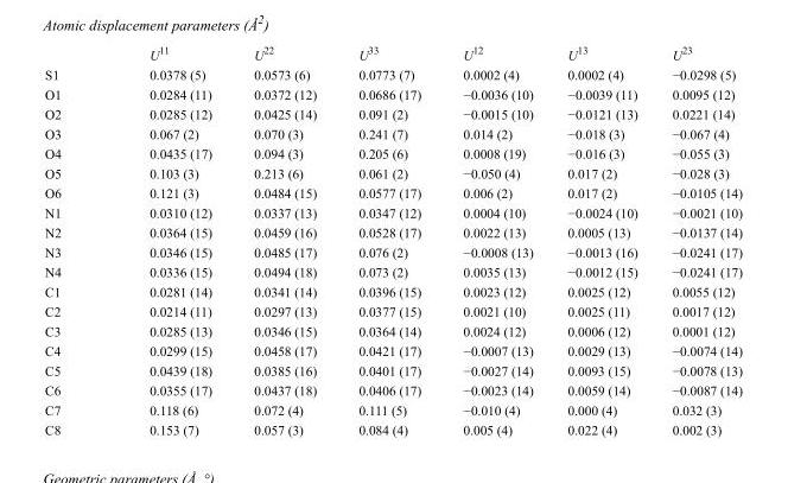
<table><thead><tr><td></td><td>U<sup>11</sup></td><td>U<sup>22</sup></td><td>U<sup>33</sup></td><td>U<sup>12</sup></td><td>U<sup>13</sup></td><td>U<sup>23</sup></td></tr></thead><tbody><tr><td>S1</td><td>0.0378 (5)</td><td>0.0573 (6)</td><td>0.0773 (7)</td><td>0.0002 (4)</td><td>0.0002 (4)</td><td>−0.0298 (5)</td></tr><tr><td>O1</td><td>0.0284 (11)</td><td>0.0372 (12)</td><td>0.0686 (17)</td><td>−0.0036 (10)</td><td>−0.0039 (11)</td><td>0.0095 (12)</td></tr><tr><td>O2</td><td>0.0285 (12)</td><td>0.0425 (14)</td><td>0.091 (2)</td><td>−0.0015 (10)</td><td>−0.0121 (13)</td><td>0.0221 (14)</td></tr><tr><td>O3</td><td>0.067 (2)</td><td>0.070 (3)</td><td>0.241 (7)</td><td>0.014 (2)</td><td>−0.018 (3)</td><td>−0.067 (4)</td></tr><tr><td>O4</td><td>0.0435 (17)</td><td>0.094 (3)</td><td>0.205 (6)</td><td>0.0008 (19)</td><td>−0.016 (3)</td><td>−0.055 (3)</td></tr><tr><td>O5</td><td>0.103 (3)</td><td>0.213 (6)</td><td>0.061 (2)</td><td>−0.050 (4)</td><td>0.017 (2)</td><td>−0.028 (3)</td></tr><tr><td>O6</td><td>0.121 (3)</td><td>0.0484 (15)</td><td>0.0577 (17)</td><td>0.006 (2)</td><td>0.017 (2)</td><td>−0.0105 (14)</td></tr><tr><td>N1</td><td>0.0310 (12)</td><td>0.0337 (13)</td><td>0.0347 (12)</td><td>0.0004 (10)</td><td>−0.0024 (10)</td><td>−0.0021 (10)</td></tr><tr><td>N2</td><td>0.0364 (15)</td><td>0.0459 (16)</td><td>0.0528 (17)</td><td>0.0022 (13)</td><td>0.0005 (13)</td><td>−0.0137 (14)</td></tr><tr><td>N3</td><td>0.0346 (15)</td><td>0.0485 (17)</td><td>0.076 (2)</td><td>−0.0008 (13)</td><td>−0.0013 (16)</td><td>−0.0241 (17)</td></tr><tr><td>N4</td><td>0.0336 (15)</td><td>0.0494 (18)</td><td>0.073 (2)</td><td>0.0035 (13)</td><td>−0.0012 (15)</td><td>−0.0241 (17)</td></tr><tr><td>C1</td><td>0.0281 (14)</td><td>0.0341 (14)</td><td>0.0396 (15)</td><td>0.0023 (12)</td><td>0.0025 (12)</td><td>0.0055 (12)</td></tr><tr><td>C2</td><td>0.0214 (11)</td><td>0.0297 (13)</td><td>0.0377 (15)</td><td>0.0021 (10)</td><td>0.0025 (11)</td><td>0.0017 (12)</td></tr><tr><td>C3</td><td>0.0285 (13)</td><td>0.0346 (15)</td><td>0.0364 (14)</td><td>0.0024 (12)</td><td>0.0006 (12)</td><td>0.0001 (12)</td></tr><tr><td>C4</td><td>0.0299 (15)</td><td>0.0458 (17)</td><td>0.0421 (17)</td><td>−0.0007 (13)</td><td>0.0029 (13)</td><td>−0.0074 (14)</td></tr><tr><td>C5</td><td>0.0439 (18)</td><td>0.0385 (16)</td><td>0.0401 (17)</td><td>−0.0027 (14)</td><td>0.0093 (15)</td><td>−0.0078 (13)</td></tr><tr><td>C6</td><td>0.0355 (17)</td><td>0.0437 (18)</td><td>0.0406 (17)</td><td>−0.0023 (14)</td><td>0.0059 (14)</td><td>−0.0087 (14)</td></tr><tr><td>C7</td><td>0.118 (6)</td><td>0.072 (4)</td><td>0.111 (5)</td><td>−0.010 (4)</td><td>0.000 (4)</td><td>0.032 (3)</td></tr><tr><td>C8</td><td>0.153 (7)</td><td>0.057 (3)</td><td>0.084 (4)</td><td>0.005 (4)</td><td>0.022 (4)</td><td>0.002 (3)</td></tr></tbody></table>